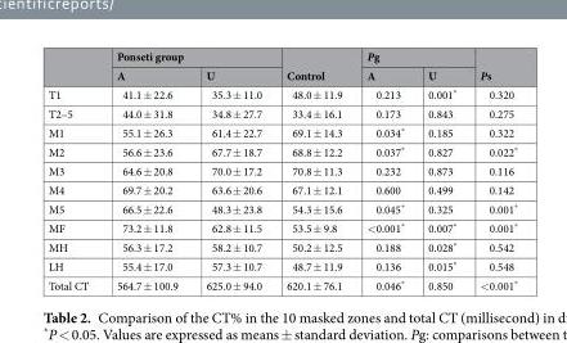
<table><thead><tr><td rowspan="2"></td><td colspan="2">Ponseti group</td><td rowspan="2">Control</td><td colspan="2">Pg</td><td rowspan="2">Ps</td></tr><tr><td>A</td><td>U</td><td>A</td><td>U</td></tr></thead><tbody><tr><td>T1</td><td>41.1 ± 22.6</td><td>35.3 ± 11.0</td><td>48.0 ± 11.9</td><td>0.213</td><td>0.001*</td><td>0.320</td></tr><tr><td>T2–5</td><td>44.0 ± 31.8</td><td>34.8 ± 27.7</td><td>33.4 ± 16.1</td><td>0.173</td><td>0.843</td><td>0.275</td></tr><tr><td>M1</td><td>55.1 ± 26.3</td><td>61.4 ± 22.7</td><td>69.1 ± 14.3</td><td>0.034*</td><td>0.185</td><td>0.322</td></tr><tr><td>M2</td><td>56.6 ± 23.6</td><td>67.7 ± 18.7</td><td>68.8 ± 12.2</td><td>0.037*</td><td>0.827</td><td>0.022*</td></tr><tr><td>M3</td><td>64.6 ± 20.8</td><td>70.0 ± 17.2</td><td>70.8 ± 11.3</td><td>0.232</td><td>0.873</td><td>0.116</td></tr><tr><td>M4</td><td>69.7 ± 20.2</td><td>63.6 ± 20.6</td><td>67.1 ± 12.1</td><td>0.600</td><td>0.499</td><td>0.142</td></tr><tr><td>M5</td><td>66.5 ± 22.6</td><td>48.3 ± 23.8</td><td>54.3 ± 15.6</td><td>0.045*</td><td>0.325</td><td>0.001*</td></tr><tr><td>MF</td><td>73.2 ± 11.8</td><td>62.8 ± 11.5</td><td>53.5 ± 9.8</td><td>&lt;0.001*</td><td>0.007*</td><td>0.001*</td></tr><tr><td>MH</td><td>56.3 ± 17.2</td><td>58.2 ± 10.7</td><td>50.2 ± 12.5</td><td>0.188</td><td>0.028*</td><td>0.542</td></tr><tr><td>LH</td><td>55.4 ± 17.0</td><td>57.3 ± 10.7</td><td>48.7 ± 11.9</td><td>0.136</td><td>0.015*</td><td>0.548</td></tr><tr><td>Total CT</td><td>564.7 ± 100.9</td><td>625.0 ± 94.0</td><td>620.1 ± 76.1</td><td>0.046*</td><td>0.850</td><td>&lt;0.001*</td></tr></tbody></table>